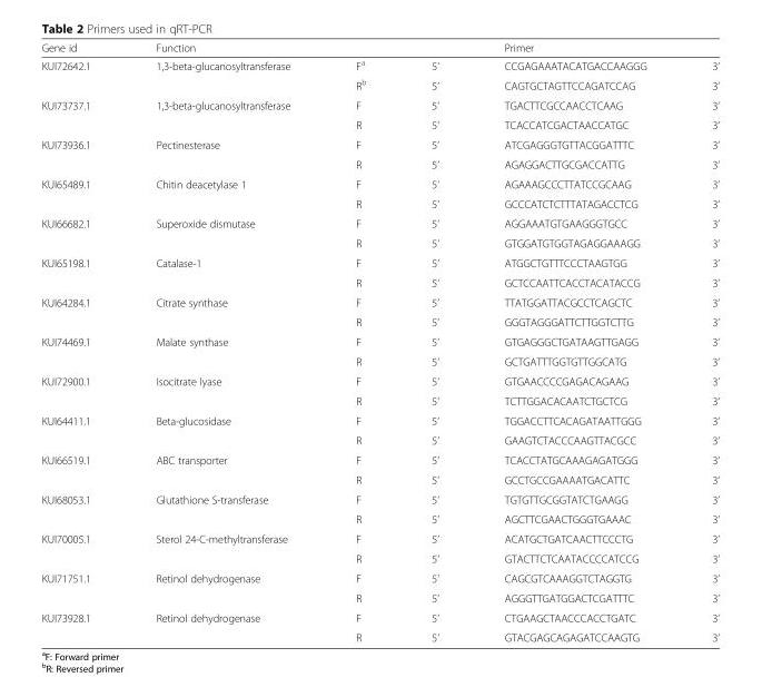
<table><thead><tr><td>Gene id</td><td>Function</td><td></td><td></td><td>Primer</td><td></td></tr></thead><tbody><tr><td rowspan="2">KUI72642.1</td><td rowspan="2">1,3-beta-glucanosyltransferase</td><td>F<sup>a</sup></td><td>5’</td><td>CCGAGAAATACATGACCAAGGG</td><td>3’</td></tr><tr><td>R<sup>b</sup></td><td>5’</td><td>CAGTGCTAGTTCCAGATCCAG</td><td>3’</td></tr><tr><td rowspan="2">KUI73737.1</td><td rowspan="2">1,3-beta-glucanosyltransferase</td><td>F</td><td>5’</td><td>TGACTTCGCCAACCTCAAG</td><td>3’</td></tr><tr><td>R</td><td>5’</td><td>TCACCATCGACTAACCATGC</td><td>3’</td></tr><tr><td rowspan="2">KUI73936.1</td><td rowspan="2">Pectinesterase</td><td>F</td><td>5’</td><td>ATCGAGGGTGTTACGGATTTC</td><td>3’</td></tr><tr><td>R</td><td>5’</td><td>AGAGGACTTGCGACCATTG</td><td>3’</td></tr><tr><td rowspan="2">KUI65489.1</td><td rowspan="2">Chitin deacetylase 1</td><td>F</td><td>5’</td><td>AGAAAGCCCTTATCCGCAAG</td><td>3’</td></tr><tr><td>R</td><td>5’</td><td>GCCCATCTCTTTATAGACCTCG</td><td>3’</td></tr><tr><td rowspan="2">KUI66682.1</td><td rowspan="2">Superoxide dismutase</td><td>F</td><td>5’</td><td>AGGAAATGTGAAGGGTGCC</td><td>3’</td></tr><tr><td>R</td><td>5’</td><td>GTGGATGTGGTAGAGGAAAGG</td><td>3’</td></tr><tr><td rowspan="2">KUI65198.1</td><td rowspan="2">Catalase-1</td><td>F</td><td>5’</td><td>ATGGCTGTTTCCCTAAGTGG</td><td>3’</td></tr><tr><td>R</td><td>5’</td><td>GCTCCAATTCACCTACATACCG</td><td>3’</td></tr><tr><td rowspan="2">KUI64284.1</td><td rowspan="2">Citrate synthase</td><td>F</td><td>5’</td><td>TTATGGATTACGCCTCAGCTC</td><td>3’</td></tr><tr><td>R</td><td>5’</td><td>GGGTAGGGATTCTTGGTCTTG</td><td>3’</td></tr><tr><td rowspan="2">KUI74469.1</td><td rowspan="2">Malate synthase</td><td>F</td><td>5’</td><td>GTGAGGGCTGATAAGTTGAGG</td><td>3’</td></tr><tr><td>R</td><td>5’</td><td>GCTGATTTGGTGTTGGCATG</td><td>3’</td></tr><tr><td rowspan="2">KUI72900.1</td><td rowspan="2">Isocitrate lyase</td><td>F</td><td>5’</td><td>GTGAACCCCGAGACAGAAG</td><td>3’</td></tr><tr><td>R</td><td>5’</td><td>TCTTGGACACAATCTGCTCG</td><td>3’</td></tr><tr><td rowspan="2">KUI64411.1</td><td rowspan="2">Beta-glucosidase</td><td>F</td><td>5’</td><td>TGGACCTTCACAGATAATTGGG</td><td>3’</td></tr><tr><td>R</td><td>5’</td><td>GAAGTCTACCCAAGTTACGCC</td><td>3’</td></tr><tr><td rowspan="2">KUI66519.1</td><td rowspan="2">ABC transporter</td><td>F</td><td>5’</td><td>TCACCTATGCAAAGAGATGGG</td><td>3’</td></tr><tr><td>R</td><td>5’</td><td>GCCTGCCGAAAATGACATTC</td><td>3’</td></tr><tr><td rowspan="2">KUI68053.1</td><td rowspan="2">Glutathione S-transferase</td><td>F</td><td>5’</td><td>TGTGTTGCGGTATCTGAAGG</td><td>3’</td></tr><tr><td>R</td><td>5’</td><td>AGCTTCGAACTGGGTGAAAC</td><td>3’</td></tr><tr><td rowspan="2">KUI70005.1</td><td rowspan="2">Sterol 24-C-methyltransferase</td><td>F</td><td>5’</td><td>ACATGCTGATCAACTTCCCTG</td><td>3’</td></tr><tr><td>R</td><td>5’</td><td>GTACTTCTCAATACCCCATCCG</td><td>3’</td></tr><tr><td rowspan="2">KUI71751.1</td><td rowspan="2">Retinol dehydrogenase</td><td>F</td><td>5’</td><td>CAGCGTCAAAGGTCTAGGTG</td><td>3’</td></tr><tr><td>R</td><td>5’</td><td>AGGGTTGATGGACTCGATTTC</td><td>3’</td></tr><tr><td rowspan="2">KUI73928.1</td><td rowspan="2">Retinol dehydrogenase</td><td>F</td><td>5’</td><td>CTGAAGCTAACCCACCTGATC</td><td>3’</td></tr><tr><td>R</td><td>5’</td><td>GTACGAGCAGAGATCCAAGTG</td><td>3’</td></tr></tbody></table>